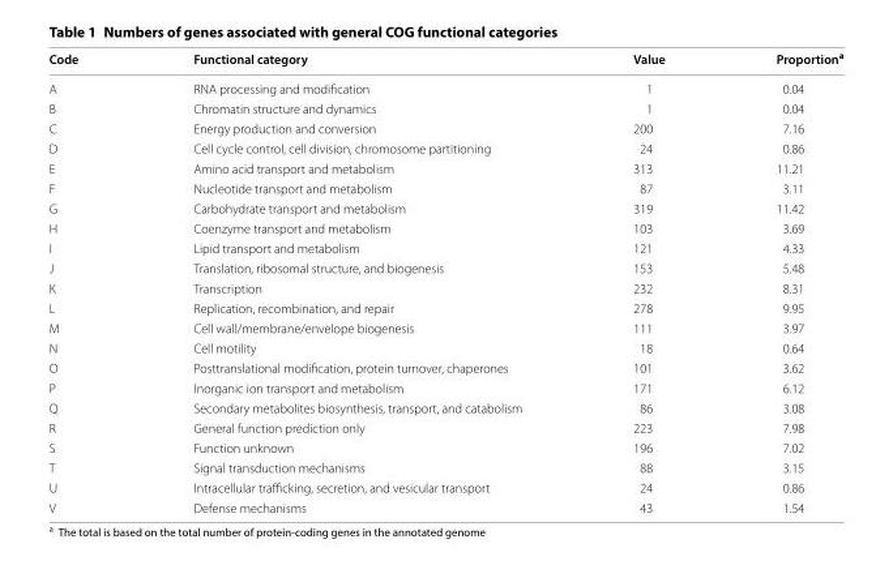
<table><thead><tr><td>Code</td><td>Functional category</td><td>Value</td><td>Proportion<sup>a</sup></td></tr></thead><tbody><tr><td>A</td><td>RNA processing and modification</td><td>1</td><td>0.04</td></tr><tr><td>B</td><td>Chromatin structure and dynamics</td><td>1</td><td>0.04</td></tr><tr><td>C</td><td>Energy production and conversion</td><td>200</td><td>7.16</td></tr><tr><td>D</td><td>Cell cycle control, cell division, chromosome partitioning</td><td>24</td><td>0.86</td></tr><tr><td>E</td><td>Amino acid transport and metabolism</td><td>313</td><td>11.21</td></tr><tr><td>F</td><td>Nucleotide transport and metabolism</td><td>87</td><td>3.11</td></tr><tr><td>G</td><td>Carbohydrate transport and metabolism</td><td>319</td><td>11.42</td></tr><tr><td>H</td><td>Coenzyme transport and metabolism</td><td>103</td><td>3.69</td></tr><tr><td>I</td><td>Lipid transport and metabolism</td><td>121</td><td>4.33</td></tr><tr><td>J</td><td>Translation, ribosomal structure, and biogenesis</td><td>153</td><td>5.48</td></tr><tr><td>K</td><td>Transcription</td><td>232</td><td>8.31</td></tr><tr><td>L</td><td>Replication, recombination, and repair</td><td>278</td><td>9.95</td></tr><tr><td>M</td><td>Cell wall/membrane/envelope biogenesis</td><td>111</td><td>3.97</td></tr><tr><td>N</td><td>Cell motility</td><td>18</td><td>0.64</td></tr><tr><td>O</td><td>Posttranslational modification, protein turnover, chaperones</td><td>101</td><td>3.62</td></tr><tr><td>P</td><td>Inorganic ion transport and metabolism</td><td>171</td><td>6.12</td></tr><tr><td>Q</td><td>Secondary metabolites biosynthesis, transport, and catabolism</td><td>86</td><td>3.08</td></tr><tr><td>R</td><td>General function prediction only</td><td>223</td><td>7.98</td></tr><tr><td>S</td><td>Function unknown</td><td>196</td><td>7.02</td></tr><tr><td>T</td><td>Signal transduction mechanisms</td><td>88</td><td>3.15</td></tr><tr><td>U</td><td>Intracellular trafficking, secretion, and vesicular transport</td><td>24</td><td>0.86</td></tr><tr><td>V</td><td>Defense mechanisms</td><td>43</td><td>1.54</td></tr></tbody></table>